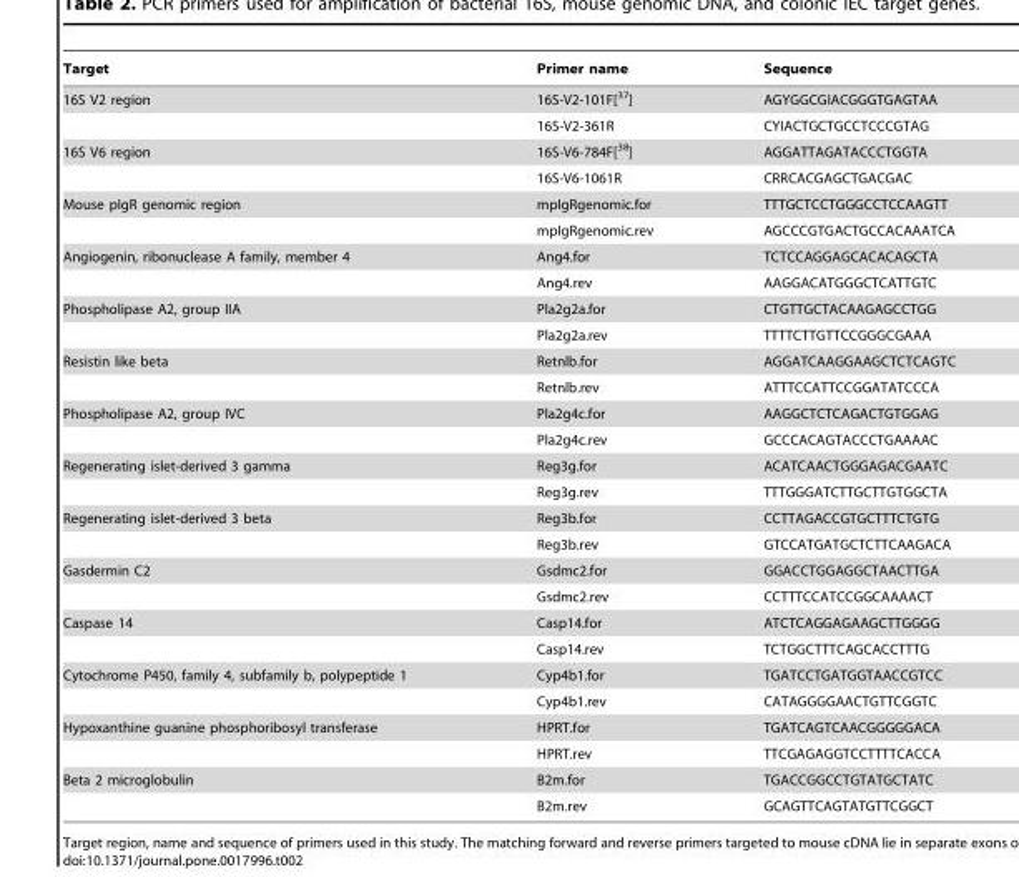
<table><thead><tr><td>Target</td><td>Primer name</td><td>Sequence</td></tr></thead><tbody><tr><td rowspan="2">16S V2 region</td><td>16S-V2-101F[<sup>37</sup>]</td><td>AGYGGCGIACGGGTGAGTAA</td></tr><tr><td>16S-V2-361R</td><td>CYIACTGCTGCCTCCCGTAG</td></tr><tr><td rowspan="2">16S V6 region</td><td>16S-V6-784F[<sup>38</sup>]</td><td>AGGATTAGATACCCTGGTA</td></tr><tr><td>16S-V6-1061R</td><td>CRRCACGAGCTGACGAC</td></tr><tr><td rowspan="2">Mouse pIgR genomic region</td><td>mpIgRgenomic.for</td><td>TTTGCTCCTGGGCCTCCAAGTT</td></tr><tr><td>mpIgRgenomic.rev</td><td>AGCCCGTGACTGCCACAAATCA</td></tr><tr><td rowspan="2">Angiogenin, ribonuclease A family, member 4</td><td>Ang4.for</td><td>TCTCCAGGAGCACACAGCTA</td></tr><tr><td>Ang4.rev</td><td>AAGGACATGGGCTCATTGTC</td></tr><tr><td rowspan="2">Phospholipase A2, group IIA</td><td>Pla2g2a.for</td><td>CTGTTGCTACAAGAGCCTGG</td></tr><tr><td>Pla2g2a.rev</td><td>TTTTCTTGTTCCGGGCGAAA</td></tr><tr><td rowspan="2">Resistin like beta</td><td>Retnlb.for</td><td>AGGATCAAGGAAGCTCTCAGTC</td></tr><tr><td>Retnlb.rev</td><td>ATTTCCATTCCGGATATCCCA</td></tr><tr><td rowspan="2">Phospholipase A2, group IVC</td><td>Pla2g4c.for</td><td>AAGGCTCTCAGACTGTGGAG</td></tr><tr><td>Pla2g4c.rev</td><td>GCCCACAGTACCCTGAAAAC</td></tr><tr><td rowspan="2">Regenerating islet-derived 3 gamma</td><td>Reg3g.for</td><td>ACATCAACTGGGAGACGAATC</td></tr><tr><td>Reg3g.rev</td><td>TTTGGGATCTTGCTTGTGGCTA</td></tr><tr><td rowspan="2">Regenerating islet-derived 3 beta</td><td>Reg3b.for</td><td>CCTTAGACCGTGCTTTCTGTG</td></tr><tr><td>Reg3b.rev</td><td>GTCCATGATGCTCTTCAAGACA</td></tr><tr><td rowspan="2">Gasdermin C2</td><td>Gsdmc2.for</td><td>GGACCTGGAGGCTAACTTGA</td></tr><tr><td>Gsdmc2.rev</td><td>CCTTTCCATCCGGCAAAACT</td></tr><tr><td rowspan="2">Caspase 14</td><td>Casp14.for</td><td>ATCTCAGGAGAAGCTTGGGG</td></tr><tr><td>Casp14.rev</td><td>TCTGGCTTTCAGCACCTTTG</td></tr><tr><td rowspan="2">Cytochrome P450, family 4, subfamily b, polypeptide 1</td><td>Cyp4b1.for</td><td>TGATCCTGATGGTAACCGTCC</td></tr><tr><td>Cyp4b1.rev</td><td>CATAGGGGAACTGTTCGGTC</td></tr><tr><td rowspan="2">Hypoxanthine guanine phosphoribosyl transferase</td><td>HPRT.for</td><td>TGATCAGTCAACGGGGGACA</td></tr><tr><td>HPRT.rev</td><td>TTCGAGAGGTCCTTTTCACCA</td></tr><tr><td rowspan="2">Beta 2 microglobulin</td><td>B2m.for</td><td>TGACCGGCCTGTATGCTATC</td></tr><tr><td>B2m.rev</td><td>GCAGTTCAGTATGTTCGGCT</td></tr></tbody></table>